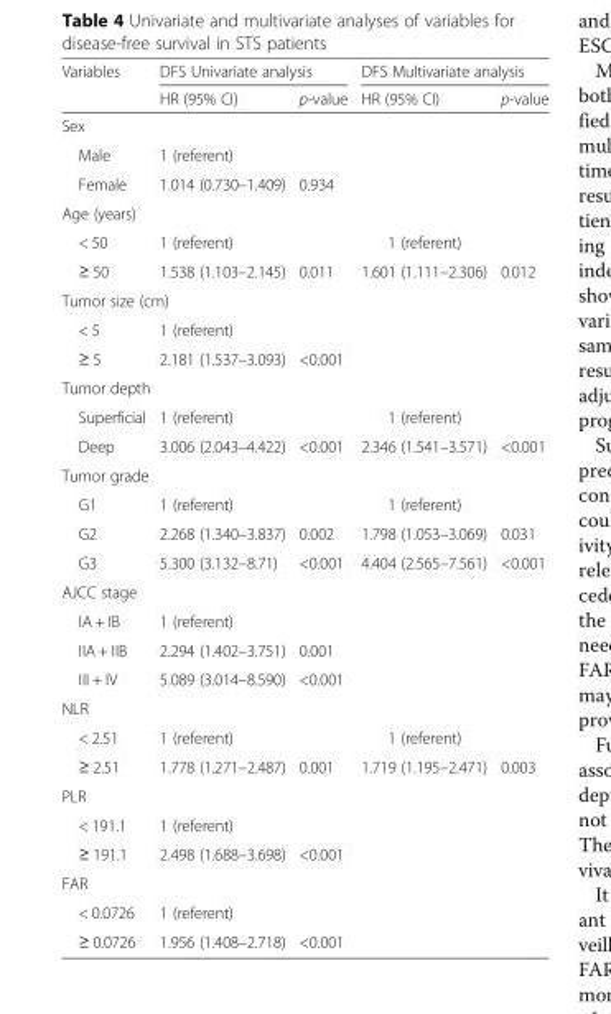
<table><thead><tr><td rowspan="2">Variables</td><td colspan="2">DFS Univariate analysis</td><td colspan="2">DFS Multivariate analysis</td></tr><tr><td>HR (95% CI)</td><td>p-value</td><td>HR (95% CI)</td><td>p-value</td></tr></thead><tbody><tr><td colspan="5">Sex</td></tr><tr><td>Male</td><td>1 (referent)</td><td></td><td></td><td></td></tr><tr><td>Female</td><td>1.014 (0.730–1.409)</td><td>0.934</td><td></td><td></td></tr><tr><td colspan="5">Age (years)</td></tr><tr><td>&lt; 50</td><td>1 (referent)</td><td></td><td>1 (referent)</td><td></td></tr><tr><td>≥ 50</td><td>1.538 (1.103–2.145)</td><td>0.011</td><td>1.601 (1.111–2.306)</td><td>0.012</td></tr><tr><td colspan="5">Tumor size (cm)</td></tr><tr><td>&lt; 5</td><td>1 (referent)</td><td></td><td></td><td></td></tr><tr><td>≥ 5</td><td>2.181 (1.537–3.093)</td><td>&lt;0.001</td><td></td><td></td></tr><tr><td colspan="5">Tumor depth</td></tr><tr><td>Superficial</td><td>1 (referent)</td><td></td><td>1 (referent)</td><td></td></tr><tr><td>Deep</td><td>3.006 (2.043–4.422)</td><td>&lt;0.001</td><td>2.346 (1.541–3.571)</td><td>&lt;0.001</td></tr><tr><td colspan="5">Tumor grade</td></tr><tr><td>G1</td><td>1 (referent)</td><td></td><td>1 (referent)</td><td></td></tr><tr><td>G2</td><td>2.268 (1.340–3.837)</td><td>0.002</td><td>1.798 (1.053–3.069)</td><td>0.031</td></tr><tr><td>G3</td><td>5.300 (3.132–8.71)</td><td>&lt;0.001</td><td>4.404 (2.565–7.561)</td><td>&lt;0.001</td></tr><tr><td colspan="5">AJCC stage</td></tr><tr><td>IA + IB</td><td>1 (referent)</td><td></td><td></td><td></td></tr><tr><td>IIA + IIB</td><td>2.294 (1.402–3.751)</td><td>0.001</td><td></td><td></td></tr><tr><td>III + IV</td><td>5.089 (3.014–8.590)</td><td>&lt;0.001</td><td></td><td></td></tr><tr><td colspan="5">NLR</td></tr><tr><td>&lt; 2.51</td><td>1 (referent)</td><td></td><td>1 (referent)</td><td></td></tr><tr><td>≥ 2.51</td><td>1.778 (1.271–2.487)</td><td>0.001</td><td>1.719 (1.195–2.471)</td><td>0.003</td></tr><tr><td colspan="5">PLR</td></tr><tr><td>&lt; 191.1</td><td>1 (referent)</td><td></td><td></td><td></td></tr><tr><td>≥ 191.1</td><td>2.498 (1.688–3.698)</td><td>&lt;0.001</td><td></td><td></td></tr><tr><td colspan="5">FAR</td></tr><tr><td>&lt; 0.0726</td><td>1 (referent)</td><td></td><td></td><td></td></tr><tr><td>≥ 0.0726</td><td>1.956 (1.408–2.718)</td><td>&lt;0.001</td><td></td><td></td></tr></tbody></table>